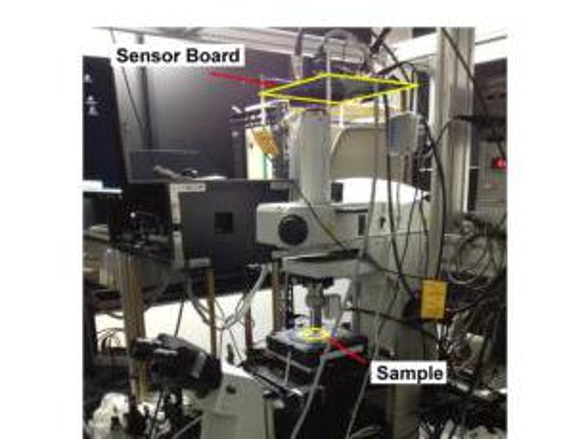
<table><thead><tr><td>Parameter</td><td>Value</td></tr></thead><tbody><tr><td>AC Power</td><td>3.8 mW</td></tr><tr><td>DC Power</td><td>8.0 mW</td></tr><tr><td>Pump laser wavelength</td><td>709.5 nm</td></tr><tr><td>Stokes laser wavelength</td><td>837~846 nm</td></tr><tr><td>Step size</td><td>0.25 nm</td></tr><tr><td>Modulation frequency</td><td>20 MHz</td></tr><tr><td>Integrator sampling frequency</td><td>5 MHz</td></tr><tr><td>Integration time</td><td>150 µs</td></tr><tr><td>Number of integration (Gain)</td><td>750</td></tr></tbody></table>